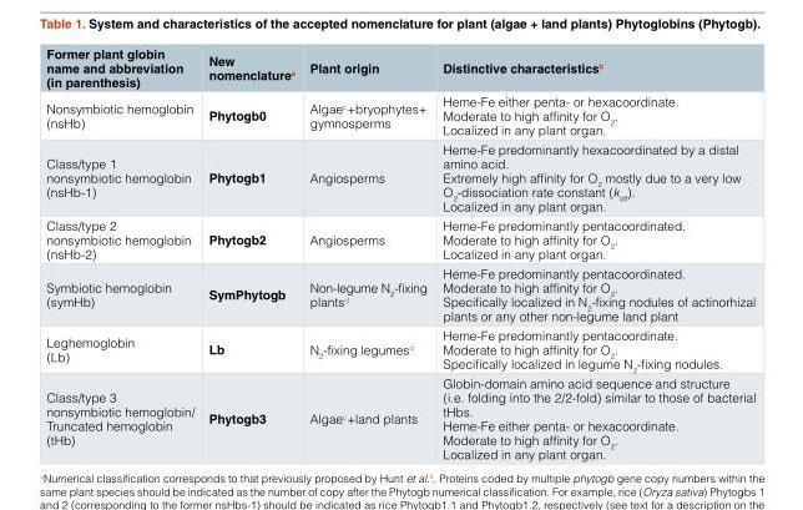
<table><thead><tr><td>Former plant globin name and abbreviation (in parenthesis)</td><td>New nomenclature<sup>a</sup></td><td>Plant origin</td><td>Distinctive characteristics<sup>b</sup></td></tr></thead><tbody><tr><td>Nonsymbiotic hemoglobin (nsHb)</td><td>Phytogb0</td><td>Algae<sup>c</sup>+bryophytes+ gymnosperms</td><td>Heme-Fe either penta- or hexacoordinate. Moderate to high affinity for O<sub>2</sub>. Localized in any plant organ.</td></tr><tr><td>Class/type 1 nonsymbiotic hemoglobin (nsHb-1)</td><td>Phytogb1</td><td>Angiosperms</td><td>Heme-Fe predominantly hexacoordinated by a distal amino acid. Extremely high affinity for O<sub>2</sub> mostly due to a very low O<sub>2</sub>-dissociation rate constant (k<sub>off</sub>). Localized in any plant organ.</td></tr><tr><td>Class/type 2 nonsymbiotic hemoglobin (nsHb-2)</td><td>Phytogb2</td><td>Angiosperms</td><td>Heme-Fe predominantly pentacoordinated. Moderate to high affinity for O<sub>2</sub>. Localized in any plant organ.</td></tr><tr><td>Symbiotic hemoglobin (symHb)</td><td>SymPhytogb</td><td>Non-legume N<sub>2</sub>-fixing plants<sup>d</sup></td><td>Heme-Fe predominantly pentacoordinated. Moderate to high affinity for O<sub>2</sub>. Specifically localized in N<sub>2</sub>-fixing nodules of actinorhizal plants or any other non-legume land plant</td></tr><tr><td>Leghemoglobin (Lb)</td><td>Lb</td><td>N<sub>2</sub>-fixing legumes<sup>d</sup></td><td>Heme-Fe predominantly pentacoordinate. Moderate to high affinity for O<sub>2</sub>. Specifically localized in legume N<sub>2</sub>-fixing nodules.</td></tr><tr><td>Class/type 3 nonsymbiotic hemoglobin/ Truncated hemoglobin (tHb)</td><td>Phytogb3</td><td>Algae<sup>c</sup>+land plants</td><td>Globin-domain amino acid sequence and structure (i.e. folding into the 2/2-fold) similar to those of bacterial tHbs. Heme-Fe either penta- or hexacoordinate. Moderate to high affinity for O<sub>2</sub>. Localized in any plant organ.</td></tr></tbody></table>